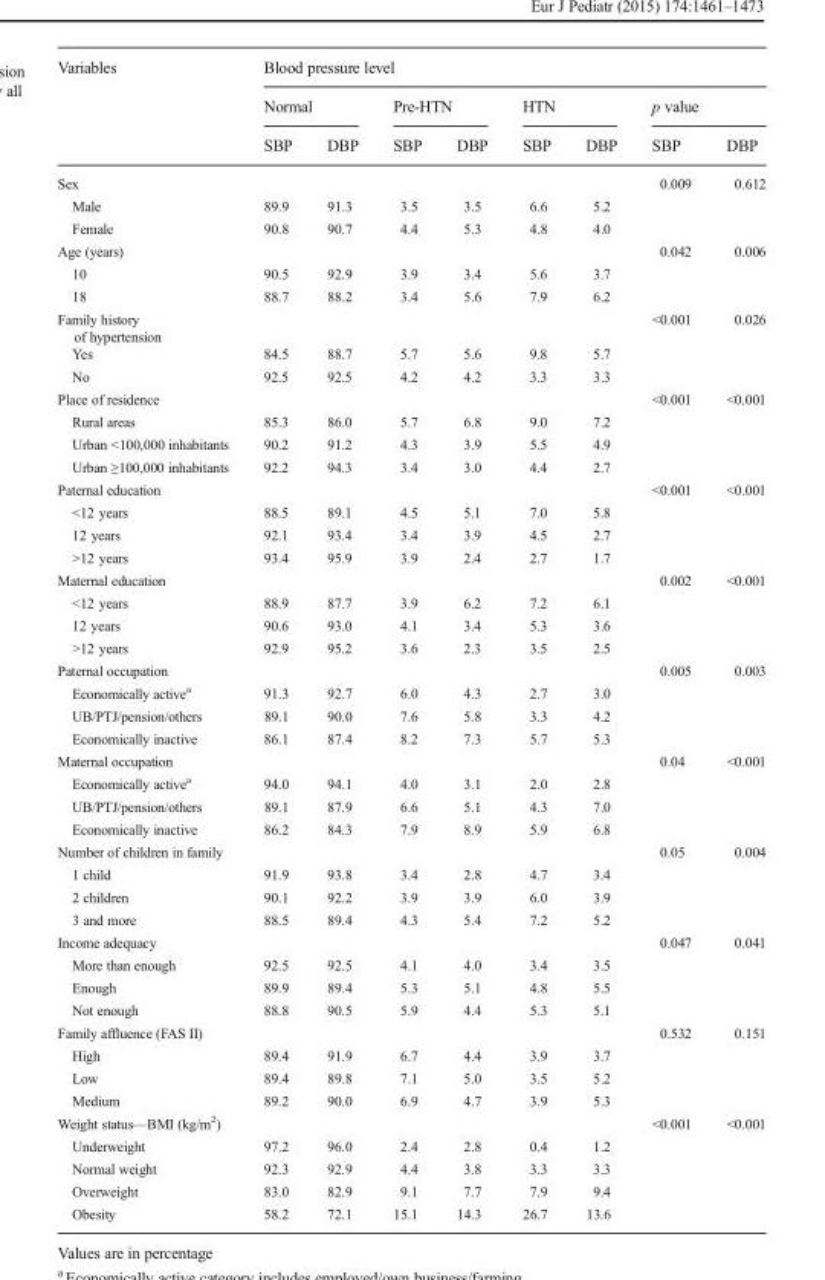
<table><thead><tr><td rowspan="3">Variables</td><td colspan="8">Blood pressure level</td></tr><tr><td colspan="2">Normal</td><td colspan="2">Pre-HTN</td><td colspan="2">HTN</td><td colspan="2">p value</td></tr><tr><td>SBP</td><td>DBP</td><td>SBP</td><td>DBP</td><td>SBP</td><td>DBP</td><td>SBP</td><td>DBP</td></tr></thead><tbody><tr><td>Sex</td><td></td><td></td><td></td><td></td><td></td><td></td><td>0.009</td><td>0.612</td></tr><tr><td>Male</td><td>89.9</td><td>91.3</td><td>3.5</td><td>3.5</td><td>6.6</td><td>5.2</td><td></td><td></td></tr><tr><td>Female</td><td>90.8</td><td>90.7</td><td>4.4</td><td>5.3</td><td>4.8</td><td>4.0</td><td></td><td></td></tr><tr><td>Age (years)</td><td></td><td></td><td></td><td></td><td></td><td></td><td>0.042</td><td>0.006</td></tr><tr><td>10</td><td>90.5</td><td>92.9</td><td>3.9</td><td>3.4</td><td>5.6</td><td>3.7</td><td></td><td></td></tr><tr><td>18</td><td>88.7</td><td>88.2</td><td>3.4</td><td>5.6</td><td>7.9</td><td>6.2</td><td></td><td></td></tr><tr><td>Family history of hypertension</td><td></td><td></td><td></td><td></td><td></td><td></td><td>&lt;0.001</td><td>0.026</td></tr><tr><td>Yes</td><td>84.5</td><td>88.7</td><td>5.7</td><td>5.6</td><td>9.8</td><td>5.7</td><td></td><td></td></tr><tr><td>No</td><td>92.5</td><td>92.5</td><td>4.2</td><td>4.2</td><td>3.3</td><td>3.3</td><td></td><td></td></tr><tr><td>Place of residence</td><td></td><td></td><td></td><td></td><td></td><td></td><td>&lt;0.001</td><td>&lt;0.001</td></tr><tr><td>Rural areas</td><td>85.3</td><td>86.0</td><td>5.7</td><td>6.8</td><td>9.0</td><td>7.2</td><td></td><td></td></tr><tr><td>Urban &lt;100,000 inhabitants</td><td>90.2</td><td>91.2</td><td>4.3</td><td>3.9</td><td>5.5</td><td>4.9</td><td></td><td></td></tr><tr><td>Urban ≥100,000 inhabitants</td><td>92.2</td><td>94.3</td><td>3.4</td><td>3.0</td><td>4.4</td><td>2.7</td><td></td><td></td></tr><tr><td>Paternal education</td><td></td><td></td><td></td><td></td><td></td><td></td><td>&lt;0.001</td><td>&lt;0.001</td></tr><tr><td>&lt;12 years</td><td>88.5</td><td>89.1</td><td>4.5</td><td>5.1</td><td>7.0</td><td>5.8</td><td></td><td></td></tr><tr><td>12 years</td><td>92.1</td><td>93.4</td><td>3.4</td><td>3.9</td><td>4.5</td><td>2.7</td><td></td><td></td></tr><tr><td>&gt;12 years</td><td>93.4</td><td>95.9</td><td>3.9</td><td>2.4</td><td>2.7</td><td>1.7</td><td></td><td></td></tr><tr><td>Maternal education</td><td></td><td></td><td></td><td></td><td></td><td></td><td>0.002</td><td>&lt;0.001</td></tr><tr><td>&lt;12 years</td><td>88.9</td><td>87.7</td><td>3.9</td><td>6.2</td><td>7.2</td><td>6.1</td><td></td><td></td></tr><tr><td>12 years</td><td>90.6</td><td>93.0</td><td>4.1</td><td>3.4</td><td>5.3</td><td>3.6</td><td></td><td></td></tr><tr><td>&gt;12 years</td><td>92.9</td><td>95.2</td><td>3.6</td><td>2.3</td><td>3.5</td><td>2.5</td><td></td><td></td></tr><tr><td>Paternal occupation</td><td></td><td></td><td></td><td></td><td></td><td></td><td>0.005</td><td>0.003</td></tr><tr><td>Economically active<sup>a</sup></td><td>91.3</td><td>92.7</td><td>6.0</td><td>4.3</td><td>2.7</td><td>3.0</td><td></td><td></td></tr><tr><td>UB/PTJ/pension/others</td><td>89.1</td><td>90.0</td><td>7.6</td><td>5.8</td><td>3.3</td><td>4.2</td><td></td><td></td></tr><tr><td>Economically inactive</td><td>86.1</td><td>87.4</td><td>8.2</td><td>7.3</td><td>5.7</td><td>5.3</td><td></td><td></td></tr><tr><td>Maternal occupation</td><td></td><td></td><td></td><td></td><td></td><td></td><td>0.04</td><td>&lt;0.001</td></tr><tr><td>Economically active<sup>a</sup></td><td>94.0</td><td>94.1</td><td>4.0</td><td>3.1</td><td>2.0</td><td>2.8</td><td></td><td></td></tr><tr><td>UB/PTJ/pension/others</td><td>89.1</td><td>87.9</td><td>6.6</td><td>5.1</td><td>4.3</td><td>7.0</td><td></td><td></td></tr><tr><td>Economically inactive</td><td>86.2</td><td>84.3</td><td>7.9</td><td>8.9</td><td>5.9</td><td>6.8</td><td></td><td></td></tr><tr><td>Number of children in family</td><td></td><td></td><td></td><td></td><td></td><td></td><td>0.05</td><td>0.004</td></tr><tr><td>1 child</td><td>91.9</td><td>93.8</td><td>3.4</td><td>2.8</td><td>4.7</td><td>3.4</td><td></td><td></td></tr><tr><td>2 children</td><td>90.1</td><td>92.2</td><td>3.9</td><td>3.9</td><td>6.0</td><td>3.9</td><td></td><td></td></tr><tr><td>3 and more</td><td>88.5</td><td>89.4</td><td>4.3</td><td>5.4</td><td>7.2</td><td>5.2</td><td></td><td></td></tr><tr><td>Income adequacy</td><td></td><td></td><td></td><td></td><td></td><td></td><td>0.047</td><td>0.041</td></tr><tr><td>More than enough</td><td>92.5</td><td>92.5</td><td>4.1</td><td>4.0</td><td>3.4</td><td>3.5</td><td></td><td></td></tr><tr><td>Enough</td><td>89.9</td><td>89.4</td><td>5.3</td><td>5.1</td><td>4.8</td><td>5.5</td><td></td><td></td></tr><tr><td>Not enough</td><td>88.8</td><td>90.5</td><td>5.9</td><td>4.4</td><td>5.3</td><td>5.1</td><td></td><td></td></tr><tr><td>Family affluence (FAS II)</td><td></td><td></td><td></td><td></td><td></td><td></td><td>0.532</td><td>0.151</td></tr><tr><td>High</td><td>89.4</td><td>91.9</td><td>6.7</td><td>4.4</td><td>3.9</td><td>3.7</td><td></td><td></td></tr><tr><td>Low</td><td>89.4</td><td>89.8</td><td>7.1</td><td>5.0</td><td>3.5</td><td>5.2</td><td></td><td></td></tr><tr><td>Medium</td><td>89.2</td><td>90.0</td><td>6.9</td><td>4.7</td><td>3.9</td><td>5.3</td><td></td><td></td></tr><tr><td>Weight status—BMI (kg/m<sup>2</sup>)</td><td></td><td></td><td></td><td></td><td></td><td></td><td>&lt;0.001</td><td>&lt;0.001</td></tr><tr><td>Underweight</td><td>97.2</td><td>96.0</td><td>2.4</td><td>2.8</td><td>0.4</td><td>1.2</td><td></td><td></td></tr><tr><td>Normal weight</td><td>92.3</td><td>92.9</td><td>4.4</td><td>3.8</td><td>3.3</td><td>3.3</td><td></td><td></td></tr><tr><td>Overweight</td><td>83.0</td><td>82.9</td><td>9.1</td><td>7.7</td><td>7.9</td><td>9.4</td><td></td><td></td></tr><tr><td>Obesity</td><td>58.2</td><td>72.1</td><td>15.1</td><td>14.3</td><td>26.7</td><td>13.6</td><td></td><td></td></tr></tbody></table>